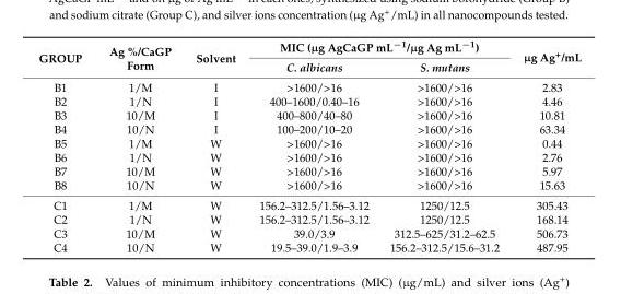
<table><thead><tr><td rowspan="2">GROUP</td><td rowspan="2">Ag %/CaGP Form</td><td rowspan="2">Solvent</td><td colspan="2">MIC (µg AgCaGP mL<sup>−1</sup>/µg Ag mL<sup>−1</sup>)</td><td rowspan="2">µg Ag<sup>+</sup>/mL</td></tr><tr><td>C. albicans</td><td>S. mutans</td></tr></thead><tbody><tr><td>B1</td><td>1/M</td><td>I</td><td>&gt;1600/&gt;16</td><td>&gt;1600/&gt;16</td><td>2.83</td></tr><tr><td>B2</td><td>1/N</td><td>I</td><td>400–1600/0.40–16</td><td>&gt;1600/&gt;16</td><td>4.46</td></tr><tr><td>B3</td><td>10/M</td><td>I</td><td>400–800/40–80</td><td>&gt;1600/&gt;16</td><td>10.81</td></tr><tr><td>B4</td><td>10/N</td><td>I</td><td>100–200/10–20</td><td>&gt;1600/&gt;16</td><td>63.34</td></tr><tr><td>B5</td><td>1/M</td><td>W</td><td>&gt;1600/&gt;16</td><td>&gt;1600/&gt;16</td><td>0.44</td></tr><tr><td>B6</td><td>1/N</td><td>W</td><td>&gt;1600/&gt;16</td><td>&gt;1600/&gt;16</td><td>2.76</td></tr><tr><td>B7</td><td>10/M</td><td>W</td><td>&gt;1600/&gt;16</td><td>&gt;1600/&gt;16</td><td>5.97</td></tr><tr><td>B8</td><td>10/N</td><td>W</td><td>&gt;1600/&gt;16</td><td>&gt;1600/&gt;16</td><td>15.63</td></tr><tr><td>C1</td><td>1/M</td><td>W</td><td>156.2–312.5/1.56–3.12</td><td>1250/12.5</td><td>305.43</td></tr><tr><td>C2</td><td>1/N</td><td>W</td><td>156.2–312.5/1.56–3.12</td><td>1250/12.5</td><td>168.14</td></tr><tr><td>C3</td><td>10/M</td><td>W</td><td>39.0/3.9</td><td>312.5–625/31.2–62.5</td><td>506.73</td></tr><tr><td>C4</td><td>10/N</td><td>W</td><td>19.5–39.0/1.9–3.9</td><td>156.2–312.5/15.6–31.2</td><td>487.95</td></tr></tbody></table>